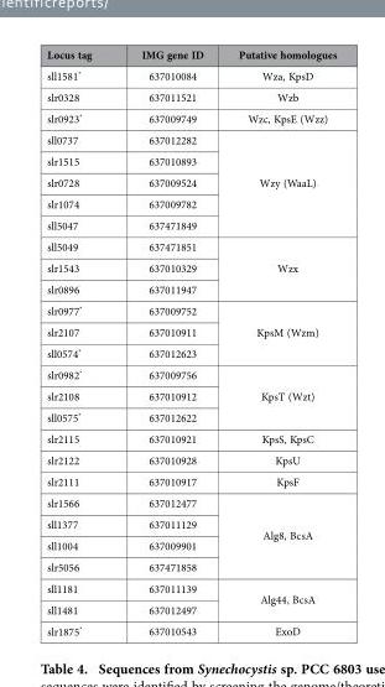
<table><thead><tr><td>Locus tag</td><td>IMG gene ID</td><td>Putative homologues</td></tr></thead><tbody><tr><td>sll1581*</td><td>637010084</td><td>Wza, KpsD</td></tr><tr><td>slr0328</td><td>637011521</td><td>Wzb</td></tr><tr><td>slr0923*</td><td>637009749</td><td>Wzc, KpsE (Wzz)</td></tr><tr><td>sll0737</td><td>637012282</td><td rowspan="5">Wzy (WaaL)</td></tr><tr><td>slr1515</td><td>637010893</td></tr><tr><td>slr0728</td><td>637009524</td></tr><tr><td>slr1074</td><td>637009782</td></tr><tr><td>sll5047</td><td>637471849</td></tr><tr><td>sll5049</td><td>637471851</td><td rowspan="3">Wzx</td></tr><tr><td>slr1543</td><td>637010329</td></tr><tr><td>slr0896</td><td>637011947</td></tr><tr><td>slr0977*</td><td>637009752</td><td rowspan="3">KpsM (Wzm)</td></tr><tr><td>slr2107</td><td>637010911</td></tr><tr><td>sll0574*</td><td>637012623</td></tr><tr><td>slr0982*</td><td>637009756</td><td rowspan="3">KpsT (Wzt)</td></tr><tr><td>slr2108</td><td>637010912</td></tr><tr><td>sll0575*</td><td>637012622</td></tr><tr><td>slr2115</td><td>637010921</td><td>KpsS, KpsC</td></tr><tr><td>slr2122</td><td>637010928</td><td>KpsU</td></tr><tr><td>slr2111</td><td>637010917</td><td>KpsF</td></tr><tr><td>slr1566</td><td>637012477</td><td rowspan="4">Alg8, BcsA</td></tr><tr><td>sll1377</td><td>637011129</td></tr><tr><td>sll1004</td><td>637009901</td></tr><tr><td>slr5056</td><td>637471858</td></tr><tr><td>sll1181</td><td>637011139</td><td rowspan="2">Alg44, BcsA</td></tr><tr><td>sll1481</td><td>637012497</td></tr><tr><td>slr1875*</td><td>637010543</td><td>ExoD</td></tr></tbody></table>